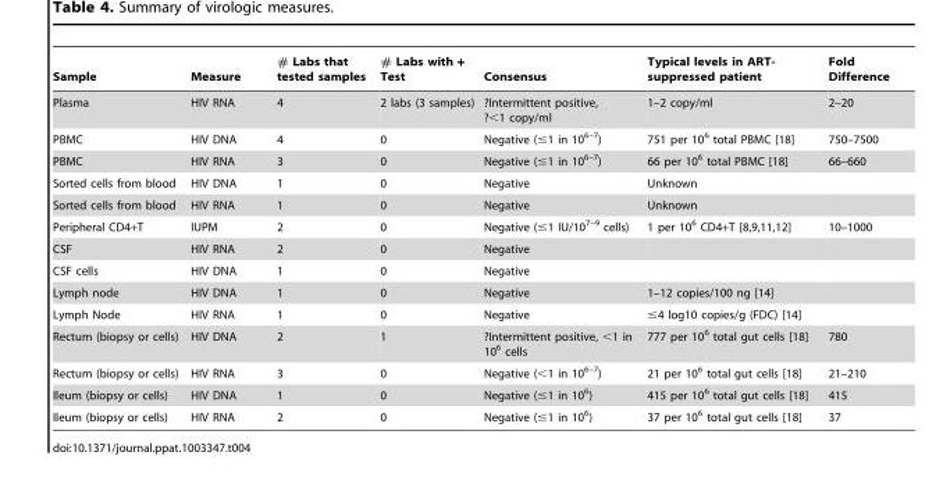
<table><thead><tr><td>Sample</td><td>Measure</td><td># Labs that tested samples</td><td># Labs with + Test</td><td>Consensus</td><td>Typical levels in ART- suppressed patient</td><td>Fold Difference</td></tr></thead><tbody><tr><td>Plasma</td><td>HIV RNA</td><td>4</td><td>2 labs (3 samples)</td><td>?Intermittent positive, ?&lt;1 copy/ml</td><td>1–2 copy/ml</td><td>2–20</td></tr><tr><td>PBMC</td><td>HIV DNA</td><td>4</td><td>0</td><td>Negative (≤1 in 10<sup>6–7</sup>)</td><td>751 per 10<sup>6</sup> total PBMC [18]</td><td>750–7500</td></tr><tr><td>PBMC</td><td>HIV RNA</td><td>3</td><td>0</td><td>Negative (≤1 in 10<sup>6–7</sup>)</td><td>66 per 10<sup>6</sup> total PBMC [18]</td><td>66–660</td></tr><tr><td>Sorted cells from blood</td><td>HIV DNA</td><td>1</td><td>0</td><td>Negative</td><td>Unknown</td><td></td></tr><tr><td>Sorted cells from blood</td><td>HIV RNA</td><td>1</td><td>0</td><td>Negative</td><td>Unknown</td><td></td></tr><tr><td>Peripheral CD4+T</td><td>IUPM</td><td>2</td><td>0</td><td>Negative (≤1 IU/10<sup>7–9</sup> cells)</td><td>1 per 106 CD4+T [8,9,11,12]</td><td>10–1000</td></tr><tr><td>CSF</td><td>HIV RNA</td><td>2</td><td>0</td><td>Negative</td><td></td><td></td></tr><tr><td>CSF cells</td><td>HIV DNA</td><td>1</td><td>0</td><td>Negative</td><td></td><td></td></tr><tr><td>Lymph node</td><td>HIV DNA</td><td>1</td><td>0</td><td>Negative</td><td>1–12 copies/100 ng [14]</td><td></td></tr><tr><td>Lymph Node</td><td>HIV RNA</td><td>1</td><td>0</td><td>Negative</td><td>≤4 log10 copies/g (FDC) [14]</td><td></td></tr><tr><td>Rectum (biopsy or cells)</td><td>HIV DNA</td><td>2</td><td>1</td><td>?Intermittent positive, &lt;1 in 10<sup>6</sup> cells</td><td>777 per 10<sup>6</sup> total gut cells [18]</td><td>780</td></tr><tr><td>Rectum (biopsy or cells)</td><td>HIV RNA</td><td>3</td><td>0</td><td>Negative (&lt;1 in 10<sup>6–7</sup>)</td><td>21 per 10<sup>6</sup> total gut cells [18]</td><td>21–210</td></tr><tr><td>Ileum (biopsy or cells)</td><td>HIV DNA</td><td>1</td><td>0</td><td>Negative (≤1 in 10<sup>6</sup>)</td><td>415 per 10<sup>6</sup> total gut cells [18]</td><td>415</td></tr><tr><td>Ileum (biopsy or cells)</td><td>HIV RNA</td><td>2</td><td>0</td><td>Negative (≤1 in 10<sup>6</sup>)</td><td>37 per 10<sup>6</sup> total gut cells [18]</td><td>37</td></tr></tbody></table>